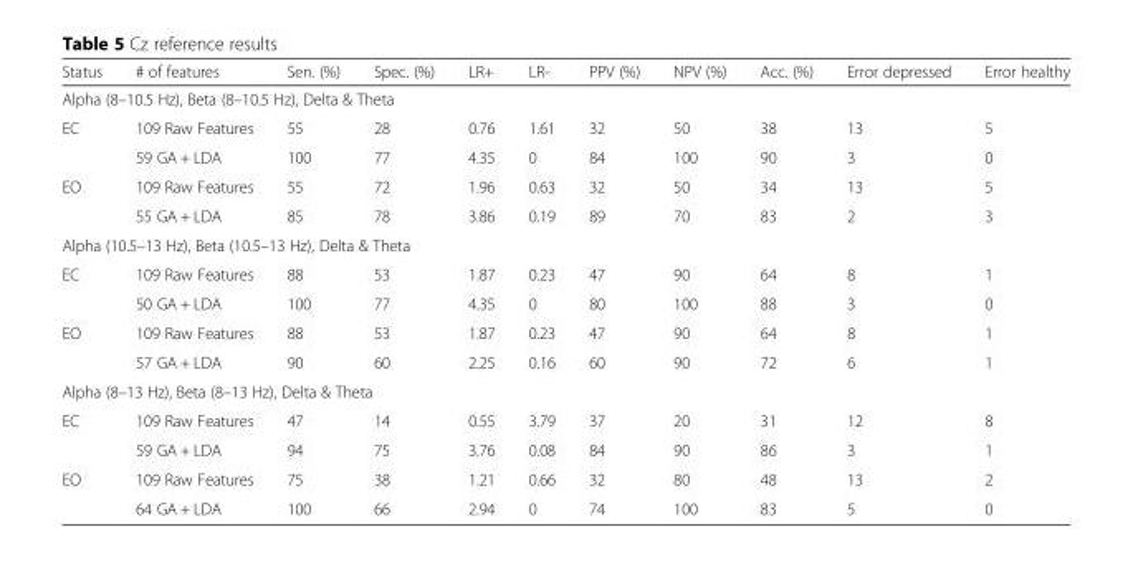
<table><thead><tr><td>Status</td><td># of features</td><td>Sen. (%)</td><td>Spec. (%)</td><td>LR+</td><td>LR-</td><td>PPV (%)</td><td>NPV (%)</td><td>Acc. (%)</td><td>Error depressed</td><td>Error healthy</td></tr></thead><tbody><tr><td colspan="11">Alpha (8–10.5 Hz), Beta (8–10.5 Hz), Delta &amp; Theta</td></tr><tr><td rowspan="2">EC</td><td>109 Raw Features</td><td>55</td><td>28</td><td>0.76</td><td>1.61</td><td>32</td><td>50</td><td>38</td><td>13</td><td>5</td></tr><tr><td>59 GA + LDA</td><td>100</td><td>77</td><td>4.35</td><td>0</td><td>84</td><td>100</td><td>90</td><td>3</td><td>0</td></tr><tr><td rowspan="2">EO</td><td>109 Raw Features</td><td>55</td><td>72</td><td>1.96</td><td>0.63</td><td>32</td><td>50</td><td>34</td><td>13</td><td>5</td></tr><tr><td>55 GA + LDA</td><td>85</td><td>78</td><td>3.86</td><td>0.19</td><td>89</td><td>70</td><td>83</td><td>2</td><td>3</td></tr><tr><td colspan="11">Alpha (10.5–13 Hz), Beta (10.5–13 Hz), Delta &amp; Theta</td></tr><tr><td rowspan="2">EC</td><td>109 Raw Features</td><td>88</td><td>53</td><td>1.87</td><td>0.23</td><td>47</td><td>90</td><td>64</td><td>8</td><td>1</td></tr><tr><td>50 GA + LDA</td><td>100</td><td>77</td><td>4.35</td><td>0</td><td>80</td><td>100</td><td>88</td><td>3</td><td>0</td></tr><tr><td rowspan="2">EO</td><td>109 Raw Features</td><td>88</td><td>53</td><td>1.87</td><td>0.23</td><td>47</td><td>90</td><td>64</td><td>8</td><td>1</td></tr><tr><td>57 GA + LDA</td><td>90</td><td>60</td><td>2.25</td><td>0.16</td><td>60</td><td>90</td><td>72</td><td>6</td><td>1</td></tr><tr><td colspan="11">Alpha (8–13 Hz), Beta (8–13 Hz), Delta &amp; Theta</td></tr><tr><td rowspan="2">EC</td><td>109 Raw Features</td><td>47</td><td>14</td><td>0.55</td><td>3.79</td><td>37</td><td>20</td><td>31</td><td>12</td><td>8</td></tr><tr><td>59 GA + LDA</td><td>94</td><td>75</td><td>3.76</td><td>0.08</td><td>84</td><td>90</td><td>86</td><td>3</td><td>1</td></tr><tr><td rowspan="2">EO</td><td>109 Raw Features</td><td>75</td><td>38</td><td>1.21</td><td>0.66</td><td>32</td><td>80</td><td>48</td><td>13</td><td>2</td></tr><tr><td>64 GA + LDA</td><td>100</td><td>66</td><td>2.94</td><td>0</td><td>74</td><td>100</td><td>83</td><td>5</td><td>0</td></tr></tbody></table>